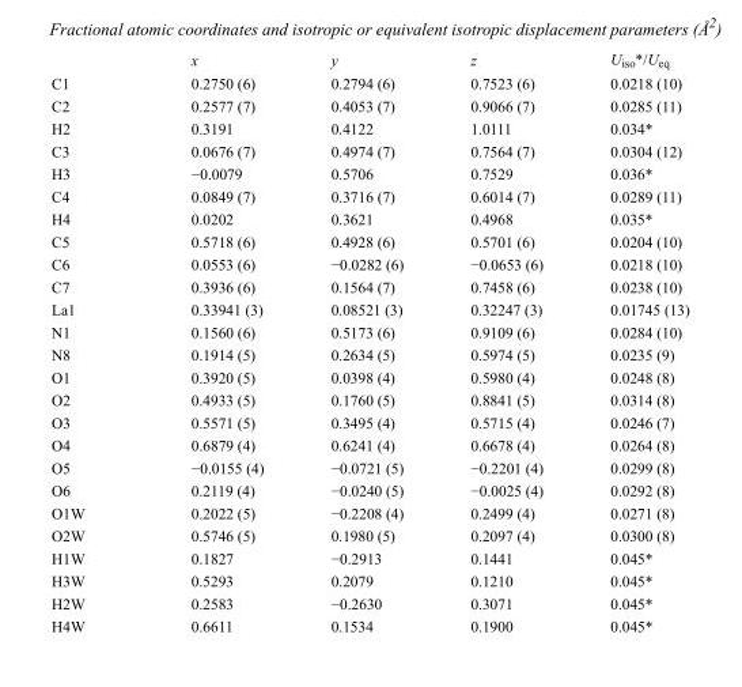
<table><thead><tr><td></td><td>x</td><td>y</td><td>z</td><td>U<sub>iso</sub>*/U<sub>eq</sub></td></tr></thead><tbody><tr><td>C1</td><td>0.2750 (6)</td><td>0.2794 (6)</td><td>0.7523 (6)</td><td>0.0218 (10)</td></tr><tr><td>C2</td><td>0.2577 (7)</td><td>0.4053 (7)</td><td>0.9066 (7)</td><td>0.0285 (11)</td></tr><tr><td>H2</td><td>0.3191</td><td>0.4122</td><td>1.0111</td><td>0.034*</td></tr><tr><td>C3</td><td>0.0676 (7)</td><td>0.4974 (7)</td><td>0.7564 (7)</td><td>0.0304 (12)</td></tr><tr><td>H3</td><td>−0.0079</td><td>0.5706</td><td>0.7529</td><td>0.036*</td></tr><tr><td>C4</td><td>0.0849 (7)</td><td>0.3716 (7)</td><td>0.6014 (7)</td><td>0.0289 (11)</td></tr><tr><td>H4</td><td>0.0202</td><td>0.3621</td><td>0.4968</td><td>0.035*</td></tr><tr><td>C5</td><td>0.5718 (6)</td><td>0.4928 (6)</td><td>0.5701 (6)</td><td>0.0204 (10)</td></tr><tr><td>C6</td><td>0.0553 (6)</td><td>−0.0282 (6)</td><td>−0.0653 (6)</td><td>0.0218 (10)</td></tr><tr><td>C7</td><td>0.3936 (6)</td><td>0.1564 (7)</td><td>0.7458 (6)</td><td>0.0238 (10)</td></tr><tr><td>La1</td><td>0.33941 (3)</td><td>0.08521 (3)</td><td>0.32247 (3)</td><td>0.01745 (13)</td></tr><tr><td>N1</td><td>0.1560 (6)</td><td>0.5173 (6)</td><td>0.9109 (6)</td><td>0.0284 (10)</td></tr><tr><td>N8</td><td>0.1914 (5)</td><td>0.2634 (5)</td><td>0.5974 (5)</td><td>0.0235 (9)</td></tr><tr><td>O1</td><td>0.3920 (5)</td><td>0.0398 (4)</td><td>0.5980 (4)</td><td>0.0248 (8)</td></tr><tr><td>O2</td><td>0.4933 (5)</td><td>0.1760 (5)</td><td>0.8841 (5)</td><td>0.0314 (8)</td></tr><tr><td>O3</td><td>0.5571 (5)</td><td>0.3495 (4)</td><td>0.5715 (4)</td><td>0.0246 (7)</td></tr><tr><td>O4</td><td>0.6879 (4)</td><td>0.6241 (4)</td><td>0.6678 (4)</td><td>0.0264 (8)</td></tr><tr><td>O5</td><td>−0.0155 (4)</td><td>−0.0721 (5)</td><td>−0.2201 (4)</td><td>0.0299 (8)</td></tr><tr><td>O6</td><td>0.2119 (4)</td><td>−0.0240 (5)</td><td>−0.0025 (4)</td><td>0.0292 (8)</td></tr><tr><td>O1W</td><td>0.2022 (5)</td><td>−0.2208 (4)</td><td>0.2499 (4)</td><td>0.0271 (8)</td></tr><tr><td>O2W</td><td>0.5746 (5)</td><td>0.1980 (5)</td><td>0.2097 (4)</td><td>0.0300 (8)</td></tr><tr><td>H1W</td><td>0.1827</td><td>−0.2913</td><td>0.1441</td><td>0.045*</td></tr><tr><td>H3W</td><td>0.5293</td><td>0.2079</td><td>0.1210</td><td>0.045*</td></tr><tr><td>H2W</td><td>0.2583</td><td>−0.2630</td><td>0.3071</td><td>0.045*</td></tr><tr><td>H4W</td><td>0.6611</td><td>0.1534</td><td>0.1900</td><td>0.045*</td></tr></tbody></table>